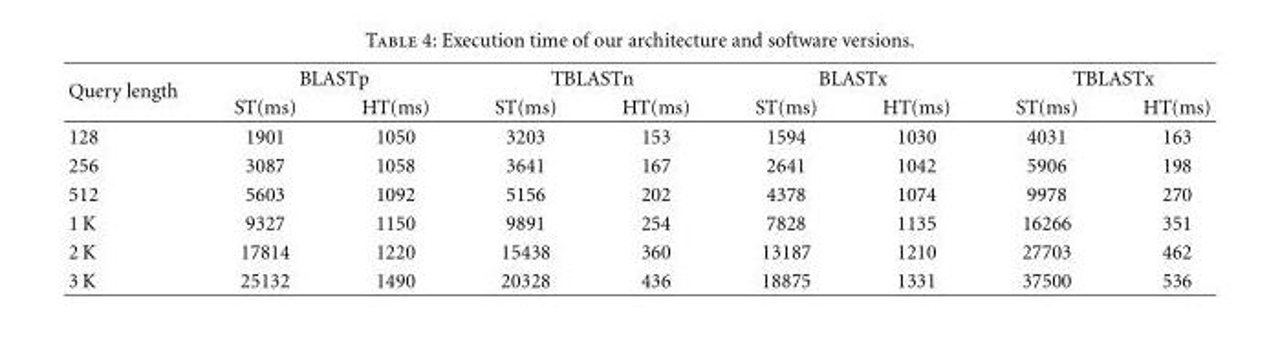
<table><thead><tr><td rowspan="2">Query length</td><td colspan="2">BLASTp</td><td colspan="2">TBLASTn</td><td colspan="2">BLASTx</td><td colspan="2">TBLASTx</td></tr><tr><td>ST(ms)</td><td>HT(ms)</td><td>ST(ms)</td><td>HT(ms)</td><td>ST(ms)</td><td>HT(ms)</td><td>ST(ms)</td><td>HT(ms)</td></tr></thead><tbody><tr><td>128</td><td>1901</td><td>1050</td><td>3203</td><td>153</td><td>1594</td><td>1030</td><td>4031</td><td>163</td></tr><tr><td>256</td><td>3087</td><td>1058</td><td>3641</td><td>167</td><td>2641</td><td>1042</td><td>5906</td><td>198</td></tr><tr><td>512</td><td>5603</td><td>1092</td><td>5156</td><td>202</td><td>4378</td><td>1074</td><td>9978</td><td>270</td></tr><tr><td>1 K</td><td>9327</td><td>1150</td><td>9891</td><td>254</td><td>7828</td><td>1135</td><td>16266</td><td>351</td></tr><tr><td>2 K</td><td>17814</td><td>1220</td><td>15438</td><td>360</td><td>13187</td><td>1210</td><td>27703</td><td>462</td></tr><tr><td>3 K</td><td>25132</td><td>1490</td><td>20328</td><td>436</td><td>18875</td><td>1331</td><td>37500</td><td>536</td></tr></tbody></table>